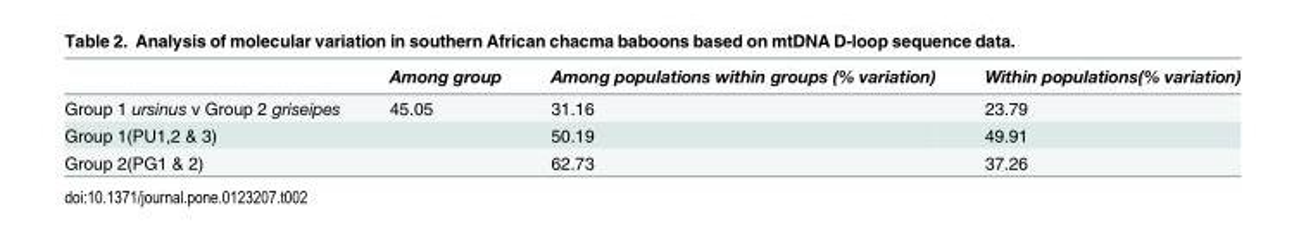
<table><thead><tr><td></td><td>Among group</td><td>Among populations within groups (% variation)</td><td>Within populations(% variation)</td></tr></thead><tbody><tr><td>Group 1 ursinus v Group 2 griseipes</td><td>45.05</td><td>31.16</td><td>23.79</td></tr><tr><td>Group 1(PU1,2 &amp; 3)</td><td></td><td>50.19</td><td>49.91</td></tr><tr><td>Group 2(PG1 &amp; 2)</td><td></td><td>62.73</td><td>37.26</td></tr></tbody></table>